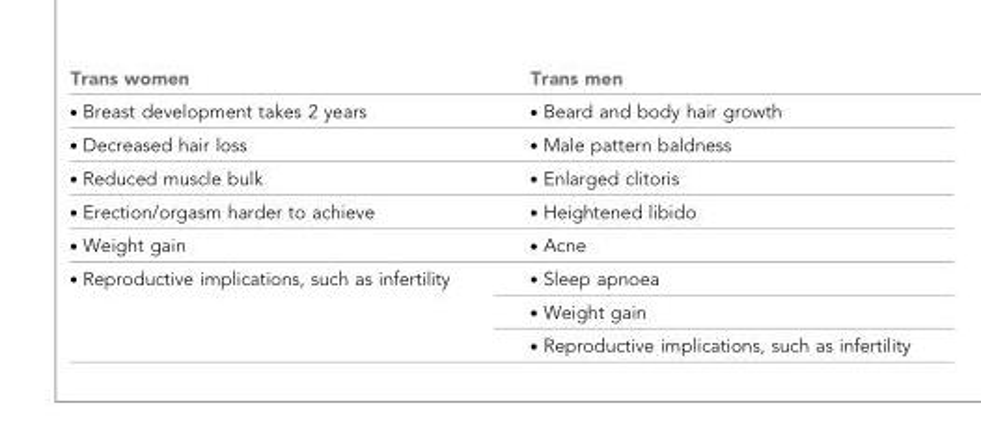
<table><thead><tr><td>Trans women</td><td>Trans men</td></tr></thead><tbody><tr><td>. Breast development takes 2 years</td><td>. Beard and body hair growth</td></tr><tr><td>. Decreased hair loss</td><td>. Male pattern baldness</td></tr><tr><td>. Reduced muscle bulk</td><td>. Enlarged clitoris</td></tr><tr><td>. Erection/orgasm harder to achieve</td><td>. Heightened libido</td></tr><tr><td>. Weight gain</td><td>. Acne</td></tr><tr><td rowspan="3">. Reproductive implications, such as infertility</td><td>. Sleep apnoea</td></tr><tr><td>. Weight gain</td></tr><tr><td>. Reproductive implications, such as infertility</td></tr></tbody></table>